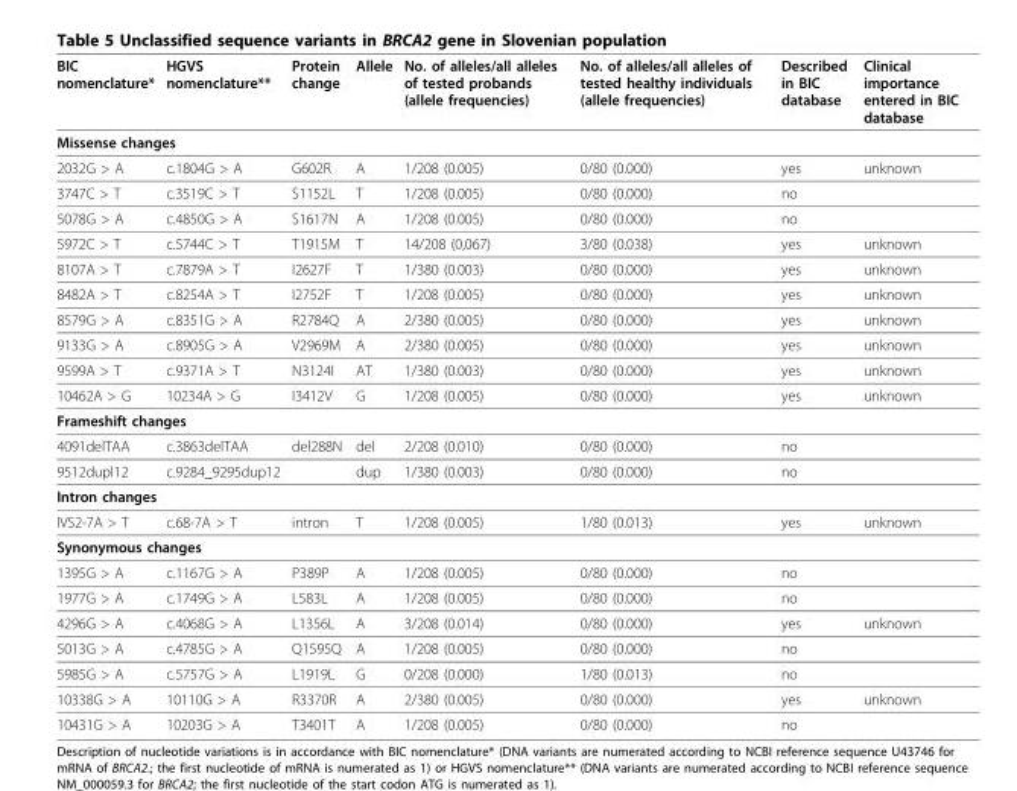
<table><thead><tr><td>BIC nomenclature*</td><td>HGVS nomenclature**</td><td>Protein change</td><td>Allele</td><td>No. of alleles/all alleles of tested probands (allele frequencies)</td><td>No. of alleles/all alleles of tested healthy individuals (allele frequencies)</td><td>Described in BIC database</td><td>Clinical importance entered in BIC database</td></tr></thead><tbody><tr><td colspan="8">Missense changes</td></tr><tr><td>2032G &gt; A</td><td>c.1804G &gt; A</td><td>G602R</td><td>A</td><td>1/208 (0.005)</td><td>0/80 (0.000)</td><td>yes</td><td>unknown</td></tr><tr><td>3747C &gt; T</td><td>c.3519C &gt; T</td><td>S1152L</td><td>T</td><td>1/208 (0.005)</td><td>0/80 (0.000)</td><td>no</td><td></td></tr><tr><td>5078G &gt; A</td><td>c.4850G &gt; A</td><td>S1617N</td><td>A</td><td>1/208 (0.005)</td><td>0/80 (0.000)</td><td>no</td><td></td></tr><tr><td>5972C &gt; T</td><td>c.5744C &gt; T</td><td>T1915M</td><td>T</td><td>14/208 (0,067)</td><td>3/80 (0.038)</td><td>yes</td><td>unknown</td></tr><tr><td>8107A &gt; T</td><td>c.7879A &gt; T</td><td>I2627F</td><td>T</td><td>1/380 (0.003)</td><td>0/80 (0.000)</td><td>yes</td><td>unknown</td></tr><tr><td>8482A &gt; T</td><td>c.8254A &gt; T</td><td>I2752F</td><td>T</td><td>1/208 (0.005)</td><td>0/80 (0.000)</td><td>yes</td><td>unknown</td></tr><tr><td>8579G &gt; A</td><td>c.8351G &gt; A</td><td>R2784Q</td><td>A</td><td>2/380 (0.005)</td><td>0/80 (0.000)</td><td>yes</td><td>unknown</td></tr><tr><td>9133G &gt; A</td><td>c.8905G &gt; A</td><td>V2969M</td><td>A</td><td>2/380 (0.005)</td><td>0/80 (0.000)</td><td>yes</td><td>unknown</td></tr><tr><td>9599A &gt; T</td><td>c.9371A &gt; T</td><td>N3124I</td><td>AT</td><td>1/380 (0.003)</td><td>0/80 (0.000)</td><td>yes</td><td>unknown</td></tr><tr><td>10462A &gt; G</td><td>10234A &gt; G</td><td>I3412V</td><td>G</td><td>1/208 (0.005)</td><td>0/80 (0.000)</td><td>yes</td><td>unknown</td></tr><tr><td colspan="8">Frameshift changes</td></tr><tr><td>4091delTAA</td><td>c.3863delTAA</td><td>del288N</td><td>del</td><td>2/208 (0.010)</td><td>0/80 (0.000)</td><td>no</td><td></td></tr><tr><td>9512dupl12</td><td>c.9284_9295dup12</td><td></td><td>dup</td><td>1/380 (0.003)</td><td>0/80 (0.000)</td><td>no</td><td></td></tr><tr><td colspan="8">Intron changes</td></tr><tr><td>IVS2-7A &gt; T</td><td>c.68-7A &gt; T</td><td>intron</td><td>T</td><td>1/208 (0.005)</td><td>1/80 (0.013)</td><td>yes</td><td>unknown</td></tr><tr><td colspan="8">Synonymous changes</td></tr><tr><td>1395G &gt; A</td><td>c.1167G &gt; A</td><td>P389P</td><td>A</td><td>1/208 (0.005)</td><td>0/80 (0.000)</td><td>no</td><td></td></tr><tr><td>1977G &gt; A</td><td>c.1749G &gt; A</td><td>L583L</td><td>A</td><td>1/208 (0.005)</td><td>0/80 (0.000)</td><td>no</td><td></td></tr><tr><td>4296G &gt; A</td><td>c.4068G &gt; A</td><td>L1356L</td><td>A</td><td>3/208 (0.014)</td><td>0/80 (0.000)</td><td>yes</td><td>unknown</td></tr><tr><td>5013G &gt; A</td><td>c.4785G &gt; A</td><td>Q1595Q</td><td>A</td><td>1/208 (0.005)</td><td>0/80 (0.000)</td><td>no</td><td></td></tr><tr><td>5985G &gt; A</td><td>c.5757G &gt; A</td><td>L1919L</td><td>G</td><td>0/208 (0.000)</td><td>1/80 (0.013)</td><td>no</td><td></td></tr><tr><td>10338G &gt; A</td><td>10110G &gt; A</td><td>R3370R</td><td>A</td><td>2/380 (0.005)</td><td>0/80 (0.000)</td><td>yes</td><td>unknown</td></tr><tr><td>10431G &gt; A</td><td>10203G &gt; A</td><td>T3401T</td><td>A</td><td>1/208 (0.005)</td><td>0/80 (0.000)</td><td>no</td><td></td></tr></tbody></table>